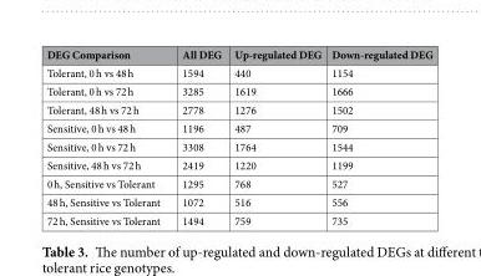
<table><thead><tr><td>DEG Comparison</td><td>All DEG</td><td>Up-regulated DEG</td><td>Down-regulated DEG</td></tr></thead><tbody><tr><td>Tolerant, 0 h vs 48 h</td><td>1594</td><td>440</td><td>1154</td></tr><tr><td>Tolerant, 0 h vs 72 h</td><td>3285</td><td>1619</td><td>1666</td></tr><tr><td>Tolerant, 48 h vs 72 h</td><td>2778</td><td>1276</td><td>1502</td></tr><tr><td>Sensitive, 0 h vs 48 h</td><td>1196</td><td>487</td><td>709</td></tr><tr><td>Sensitive, 0 h vs 72 h</td><td>3308</td><td>1764</td><td>1544</td></tr><tr><td>Sensitive, 48 h vs 72 h</td><td>2419</td><td>1220</td><td>1199</td></tr><tr><td>0 h, Sensitive vs Tolerant</td><td>1295</td><td>768</td><td>527</td></tr><tr><td>48 h, Sensitive vs Tolerant</td><td>1072</td><td>516</td><td>556</td></tr><tr><td>72 h, Sensitive vs Tolerant</td><td>1494</td><td>759</td><td>735</td></tr></tbody></table>